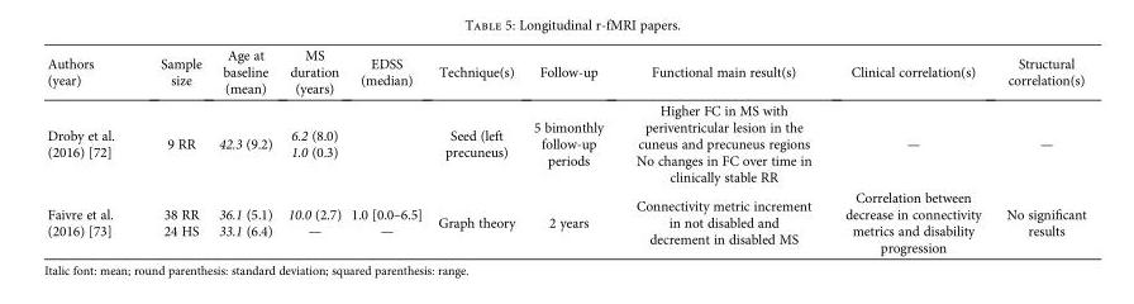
<table><thead><tr><td>Authors (year)</td><td>Sample size</td><td>Age at baseline (mean)</td><td>MS duration (years)</td><td>EDSS (median)</td><td>Technique(s)</td><td>Follow-up</td><td>Functional main result(s)</td><td>Clinical correlation(s)</td><td>Structural correlation(s)</td></tr></thead><tbody><tr><td>Droby et al. (2016) [72]</td><td>9 RR</td><td>42.3 (9.2)</td><td>6.2 (8.0) 1.0 (0.3)</td><td></td><td>Seed (left precuneus)</td><td>5 bimonthly follow-up periods</td><td>Higher FC in MS with periventricular lesion in the cuneus and precuneus regions No changes in FC over time in clinically stable RR</td><td>—</td><td>—</td></tr><tr><td>Faivre et al. (2016) [73]</td><td>38 RR 24 HS</td><td>36.1 (5.1) 33.1 (6.4)</td><td>10.0 (2.7) —</td><td>1.0 [0.0–6.5] —</td><td>Graph theory</td><td>2 years</td><td>Connectivity metric increment in not disabled and decrement in disabled MS</td><td>Correlation between decrease in connectivity metrics and disability progression</td><td>No significant results</td></tr></tbody></table>